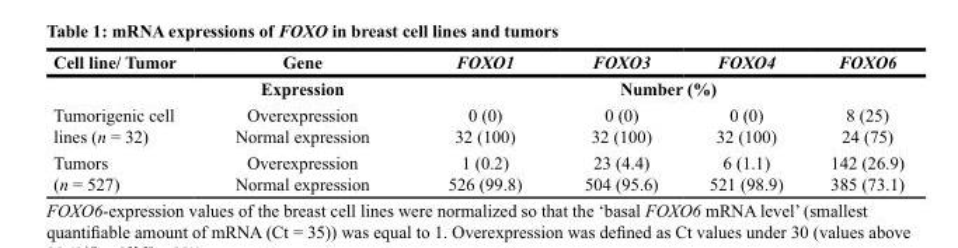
<table><thead><tr><td>Cell line/ Tumor</td><td>Gene</td><td>FOXO1</td><td>FOXO3</td><td>FOXO4</td><td>FOXO6</td></tr></thead><tbody><tr><td></td><td>Expression</td><td colspan="4">Number (%)</td></tr><tr><td>Tumorigenic cell lines (n = 32)</td><td>Overexpression Normal expression</td><td>0 (0) 32 (100)</td><td>0 (0) 32 (100)</td><td>0 (0) 32 (100)</td><td>8 (25) 24 (75)</td></tr><tr><td>Tumors (n = 527)</td><td>Overexpression Normal expression</td><td>1 (0.2) 526 (99.8)</td><td>23 (4.4) 504 (95.6)</td><td>6 (1.1) 521 (98.9)</td><td>142 (26.9) 385 (73.1)</td></tr></tbody></table>